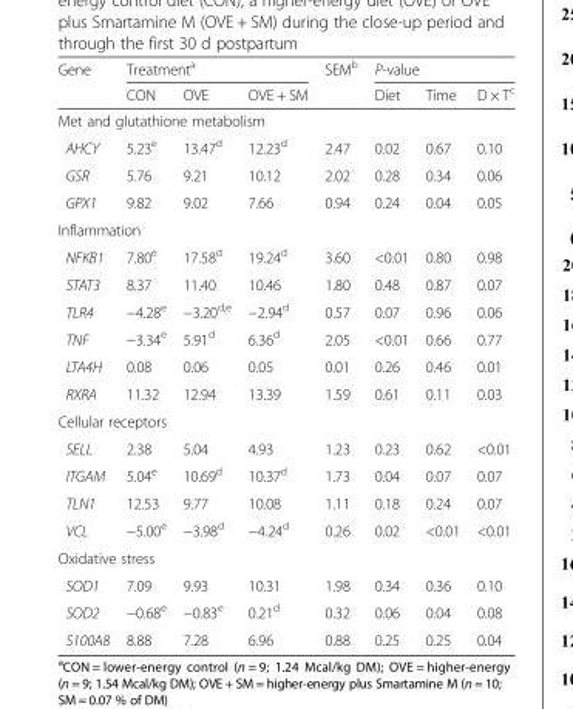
<table><thead><tr><td rowspan="2">Gene</td><td colspan="3">Treatment<sup>a</sup></td><td rowspan="2">SEM<sup>b</sup></td><td colspan="3">P-value</td></tr><tr><td>CON</td><td>OVE</td><td>OVE + SM</td><td>Diet</td><td>Time</td><td>D × T<sup>c</sup></td></tr></thead><tbody><tr><td colspan="8">Met and glutathione metabolism</td></tr><tr><td>AHCY</td><td>5.23<sup>e</sup></td><td>13.47<sup>d</sup></td><td>12.23<sup>d</sup></td><td>2.47</td><td>0.02</td><td>0.67</td><td>0.10</td></tr><tr><td>GSR</td><td>5.76</td><td>9.21</td><td>10.12</td><td>2.02</td><td>0.28</td><td>0.34</td><td>0.06</td></tr><tr><td>GPX1</td><td>9.82</td><td>9.02</td><td>7.66</td><td>0.94</td><td>0.24</td><td>0.04</td><td>0.05</td></tr><tr><td colspan="8">Inflammation</td></tr><tr><td>NFKB1</td><td>7.80<sup>e</sup></td><td>17.58<sup>d</sup></td><td>19.24<sup>d</sup></td><td>3.60</td><td>&lt;0.01</td><td>0.80</td><td>0.98</td></tr><tr><td>STAT3</td><td>8.37</td><td>11.40</td><td>10.46</td><td>1.80</td><td>0.48</td><td>0.87</td><td>0.07</td></tr><tr><td>TLR4</td><td>−4.28<sup>e</sup></td><td>−3.20<sup>d,e</sup></td><td>−2.94<sup>d</sup></td><td>0.57</td><td>0.07</td><td>0.96</td><td>0.06</td></tr><tr><td>TNF</td><td>−3.34<sup>e</sup></td><td>5.91<sup>d</sup></td><td>6.36<sup>d</sup></td><td>2.05</td><td>&lt;0.01</td><td>0.66</td><td>0.77</td></tr><tr><td>LTA4H</td><td>0.08</td><td>0.06</td><td>0.05</td><td>0.01</td><td>0.26</td><td>0.46</td><td>0.01</td></tr><tr><td>RXRA</td><td>11.32</td><td>12.94</td><td>13.39</td><td>1.59</td><td>0.61</td><td>0.11</td><td>0.03</td></tr><tr><td colspan="8">Cellular receptors</td></tr><tr><td>SELL</td><td>2.38</td><td>5.04</td><td>4.93</td><td>1.23</td><td>0.23</td><td>0.62</td><td>&lt;0.01</td></tr><tr><td>ITGAM</td><td>5.04<sup>e</sup></td><td>10.69<sup>d</sup></td><td>10.37<sup>d</sup></td><td>1.73</td><td>0.04</td><td>0.07</td><td>0.07</td></tr><tr><td>TLN1</td><td>12.53</td><td>9.77</td><td>10.08</td><td>1.11</td><td>0.18</td><td>0.24</td><td>0.07</td></tr><tr><td>VCL</td><td>−5.00<sup>e</sup></td><td>−3.98<sup>d</sup></td><td>−4.24<sup>d</sup></td><td>0.26</td><td>0.02</td><td>&lt;0.01</td><td>&lt;0.01</td></tr><tr><td colspan="8">Oxidative stress</td></tr><tr><td>SOD1</td><td>7.09</td><td>9.93</td><td>10.31</td><td>1.98</td><td>0.34</td><td>0.36</td><td>0.10</td></tr><tr><td>SOD2</td><td>−0.68<sup>e</sup></td><td>−0.83<sup>e</sup></td><td>0.21<sup>d</sup></td><td>0.32</td><td>0.06</td><td>0.04</td><td>0.08</td></tr><tr><td>S100A8</td><td>8.88</td><td>7.28</td><td>6.96</td><td>0.88</td><td>0.25</td><td>0.25</td><td>0.04</td></tr></tbody></table>